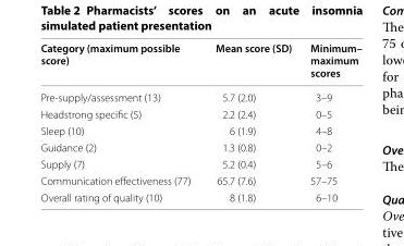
<table><thead><tr><td>Category (maximum possible score)</td><td>Mean score (SD)</td><td>Minimum– maximum scores</td></tr></thead><tbody><tr><td>Pre-supply/assessment (13)</td><td>5.7 (2.0)</td><td>3–9</td></tr><tr><td>Headstrong specific (5)</td><td>2.2 (2.4)</td><td>0–5</td></tr><tr><td>Sleep (10)</td><td>6 (1.9)</td><td>4–8</td></tr><tr><td>Guidance (2)</td><td>1.3 (0.8)</td><td>0–2</td></tr><tr><td>Supply (7)</td><td>5.2 (0.4)</td><td>5–6</td></tr><tr><td>Communication effectiveness (77)</td><td>65.7 (7.6)</td><td>57–75</td></tr><tr><td>Overall rating of quality (10)</td><td>8 (1.8)</td><td>6–10</td></tr></tbody></table>